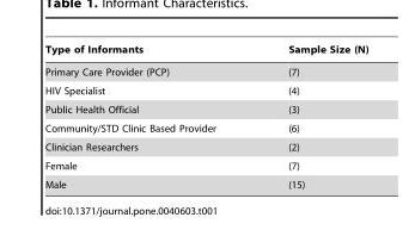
<table><thead><tr><td>Type of Informants</td><td>Sample Size (N)</td></tr></thead><tbody><tr><td>Primary Care Provider (PCP)</td><td>(7)</td></tr><tr><td>HIV Specialist</td><td>(4)</td></tr><tr><td>Public Health Official</td><td>(3)</td></tr><tr><td>Community/STD Clinic Based Provider</td><td>(6)</td></tr><tr><td>Clinician Researchers</td><td>(2)</td></tr><tr><td>Female</td><td>(7)</td></tr><tr><td>Male</td><td>(15)</td></tr></tbody></table>